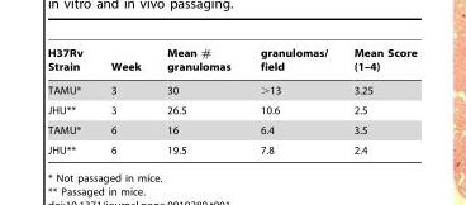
<table><thead><tr><td>H37Rv Strain</td><td>Week</td><td>Mean # granulomas</td><td>granulomas/ field</td><td>Mean Score (1–4)</td></tr></thead><tbody><tr><td>TAMU*</td><td>3</td><td>30</td><td>&gt;13</td><td>3.25</td></tr><tr><td>JHU**</td><td>3</td><td>26.5</td><td>10.6</td><td>2.5</td></tr><tr><td>TAMU*</td><td>6</td><td>16</td><td>6.4</td><td>3.5</td></tr><tr><td>JHU**</td><td>6</td><td>19.5</td><td>7.8</td><td>2.4</td></tr></tbody></table>